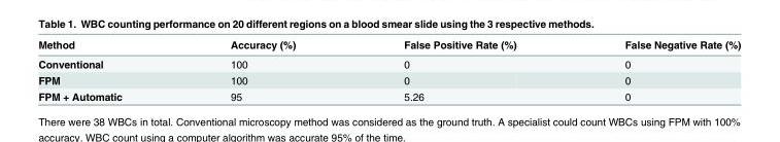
<table><thead><tr><td>Method</td><td>Accuracy (%)</td><td>False Positive Rate (%)</td><td>False Negative Rate (%)</td></tr></thead><tbody><tr><td>Conventional</td><td>100</td><td>0</td><td>0</td></tr><tr><td>FPM</td><td>100</td><td>0</td><td>0</td></tr><tr><td>FPM + Automatic</td><td>95</td><td>5.26</td><td>0</td></tr></tbody></table>